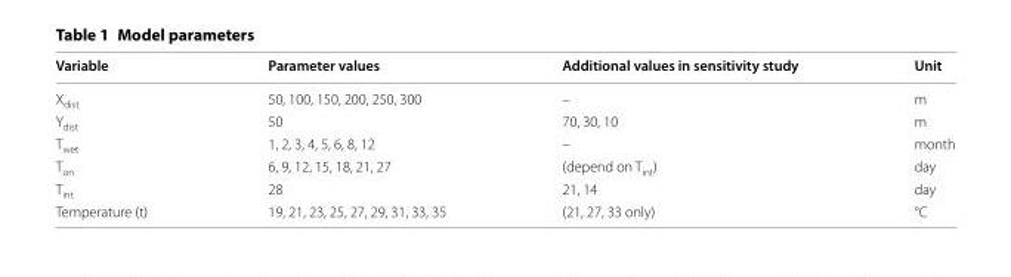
<table><thead><tr><td>Variable</td><td>Parameter values</td><td>Additional values in sensitivity study</td><td>Unit</td></tr></thead><tbody><tr><td>X<sub>dist</sub></td><td>50, 100, 150, 200, 250, 300</td><td>–</td><td>m</td></tr><tr><td>Y<sub>dist</sub></td><td>50</td><td>70, 30, 10</td><td>m</td></tr><tr><td>T<sub>wet</sub></td><td>1, 2, 3, 4, 5, 6, 8, 12</td><td>–</td><td>month</td></tr><tr><td>T<sub>on</sub></td><td>6, 9, 12, 15, 18, 21, 27</td><td>(depend on T<sub>int</sub>)</td><td>day</td></tr><tr><td>T<sub>int</sub></td><td>28</td><td>21, 14</td><td>day</td></tr><tr><td>Temperature (t)</td><td>19, 21, 23, 25, 27, 29, 31, 33, 35</td><td>(21, 27, 33 only)</td><td>°C</td></tr></tbody></table>